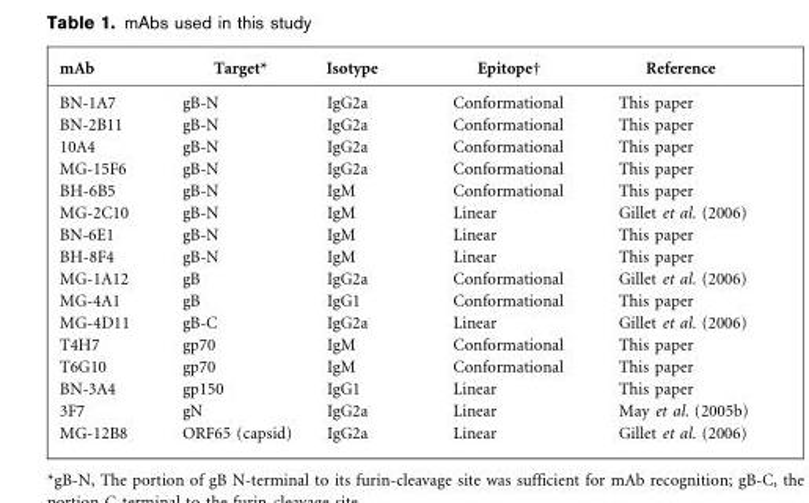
<table><thead><tr><td>mAb</td><td>Target*</td><td>Isotype</td><td>Epitope†</td><td>Reference</td></tr></thead><tbody><tr><td>BN-1A7</td><td>gB-N</td><td>IgG2a</td><td>Conformational</td><td>This paper</td></tr><tr><td>BN-2B11</td><td>gB-N</td><td>IgG2a</td><td>Conformational</td><td>This paper</td></tr><tr><td>10A4</td><td>gB-N</td><td>IgG2a</td><td>Conformational</td><td>This paper</td></tr><tr><td>MG-15F6</td><td>gB-N</td><td>IgG2a</td><td>Conformational</td><td>This paper</td></tr><tr><td>BH-6B5</td><td>gB-N</td><td>IgM</td><td>Conformational</td><td>This paper</td></tr><tr><td>MG-2C10</td><td>gB-N</td><td>IgM</td><td>Linear</td><td>Gillet et al. (2006)</td></tr><tr><td>BN-6E1</td><td>gB-N</td><td>IgM</td><td>Linear</td><td>This paper</td></tr><tr><td>BH-8F4</td><td>gB-N</td><td>IgM</td><td>Linear</td><td>This paper</td></tr><tr><td>MG-1A12</td><td>gB</td><td>IgG2a</td><td>Conformational</td><td>Gillet et al. (2006)</td></tr><tr><td>MG-4A1</td><td>gB</td><td>IgG1</td><td>Conformational</td><td>This paper</td></tr><tr><td>MG-4D11</td><td>gB-C</td><td>IgG2a</td><td>Linear</td><td>Gillet et al. (2006)</td></tr><tr><td>T4H7</td><td>gp70</td><td>IgM</td><td>Conformational</td><td>This paper</td></tr><tr><td>T6G10</td><td>gp70</td><td>IgM</td><td>Conformational</td><td>This paper</td></tr><tr><td>BN-3A4</td><td>gp150</td><td>IgG1</td><td>Linear</td><td>This paper</td></tr><tr><td>3F7</td><td>gN</td><td>IgG2a</td><td>Linear</td><td>May et al. (2005b)</td></tr><tr><td>MG-12B8</td><td>ORF65 (capsid)</td><td>IgG2a</td><td>Linear</td><td>Gillet et al. (2006)</td></tr></tbody></table>